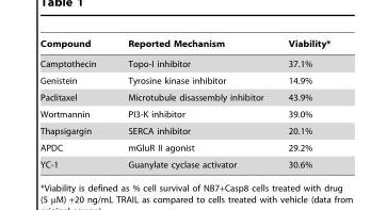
<table><thead><tr><td>Compound</td><td>Reported Mechanism</td><td>Viability*</td></tr></thead><tbody><tr><td>Camptothecin</td><td>Topo-I inhibitor</td><td>37.1%</td></tr><tr><td>Genistein</td><td>Tyrosine kinase inhibitor</td><td>14.9%</td></tr><tr><td>Paclitaxel</td><td>Microtubule disassembly inhibitor</td><td>43.9%</td></tr><tr><td>Wortmannin</td><td>PI3-K inhibitor</td><td>39.0%</td></tr><tr><td>Thapsigargin</td><td>SERCA inhibitor</td><td>20.1%</td></tr><tr><td>APDC</td><td>mGluR II agonist</td><td>29.2%</td></tr><tr><td>YC-1</td><td>Guanylate cyclase activator</td><td>30.6%</td></tr></tbody></table>